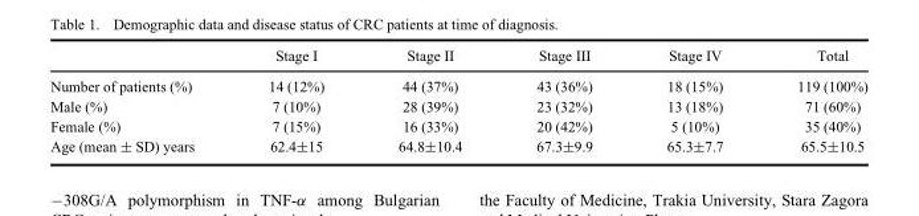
<table><thead><tr><td></td><td>Stage I</td><td>Stage II</td><td>Stage III</td><td>Stage IV</td><td>Total</td></tr></thead><tbody><tr><td>Number of patients (%)</td><td>14 (12%)</td><td>44 (37%)</td><td>43 (36%)</td><td>18 (15%)</td><td>119 (100%)</td></tr><tr><td>Male (%)</td><td>7 (10%)</td><td>28 (39%)</td><td>23 (32%)</td><td>13 (18%)</td><td>71 (60%)</td></tr><tr><td>Female (%)</td><td>7 (15%)</td><td>16 (33%)</td><td>20 (42%)</td><td>5 (10%)</td><td>35 (40%)</td></tr><tr><td>Age (mean ± SD) years</td><td>62.4±15</td><td>64.8±10.4</td><td>67.3±9.9</td><td>65.3±7.7</td><td>65.5±10.5</td></tr></tbody></table>